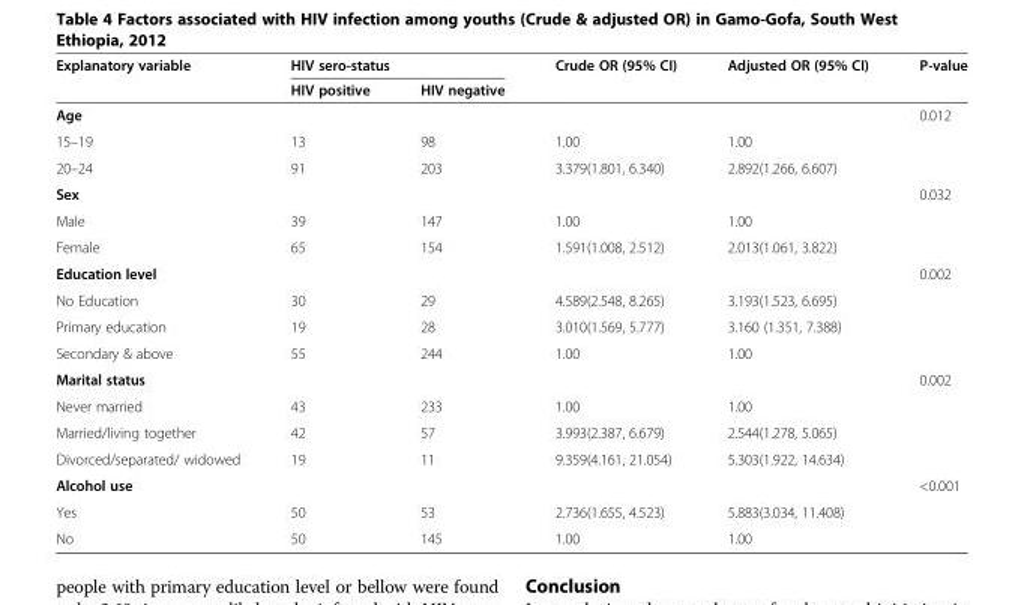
<table><thead><tr><td rowspan="2">Explanatory variable</td><td colspan="2">HIV sero-status</td><td rowspan="2">Crude OR (95% CI)</td><td rowspan="2">Adjusted OR (95% CI)</td><td rowspan="2">P-value</td></tr><tr><td>HIV positive</td><td>HIV negative</td></tr></thead><tbody><tr><td colspan="5">Age</td><td rowspan="3">0.012</td></tr><tr><td>15–19</td><td>13</td><td>98</td><td>1.00</td><td>1.00</td></tr><tr><td>20–24</td><td>91</td><td>203</td><td>3.379(1.801, 6.340)</td><td>2.892(1.266, 6.607)</td></tr><tr><td colspan="5">Sex</td><td rowspan="3">0.032</td></tr><tr><td>Male</td><td>39</td><td>147</td><td>1.00</td><td>1.00</td></tr><tr><td>Female</td><td>65</td><td>154</td><td>1.591(1.008, 2.512)</td><td>2.013(1.061, 3.822)</td></tr><tr><td colspan="5">Education level</td><td rowspan="4">0.002</td></tr><tr><td>No Education</td><td>30</td><td>29</td><td>4.589(2.548, 8.265)</td><td>3.193(1.523, 6.695)</td></tr><tr><td>Primary education</td><td>19</td><td>28</td><td>3.010(1.569, 5.777)</td><td>3.160 (1.351, 7.388)</td></tr><tr><td>Secondary &amp; above</td><td>55</td><td>244</td><td>1.00</td><td>1.00</td></tr><tr><td colspan="5">Marital status</td><td rowspan="4">0.002</td></tr><tr><td>Never married</td><td>43</td><td>233</td><td>1.00</td><td>1.00</td></tr><tr><td>Married/living together</td><td>42</td><td>57</td><td>3.993(2.387, 6.679)</td><td>2.544(1.278, 5.065)</td></tr><tr><td>Divorced/separated/ widowed</td><td>19</td><td>11</td><td>9.359(4.161, 21.054)</td><td>5.303(1.922, 14.634)</td></tr><tr><td colspan="5">Alcohol use</td><td rowspan="3">&lt;0.001</td></tr><tr><td>Yes</td><td>50</td><td>53</td><td>2.736(1.655, 4.523)</td><td>5.883(3.034, 11.408)</td></tr><tr><td>No</td><td>50</td><td>145</td><td>1.00</td><td>1.00</td></tr></tbody></table>